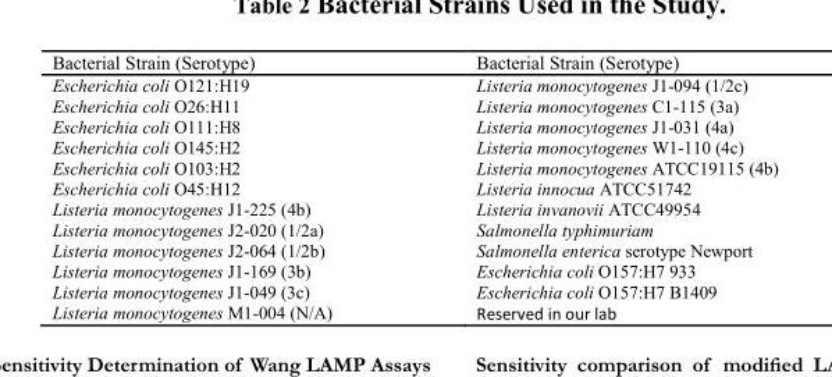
<table><thead><tr><td>Bacterial Strain (Serotype)</td><td>Bacterial Strain (Serotype)</td></tr></thead><tbody><tr><td>Escherichia coli O121:H19</td><td>Listeria monocytogenes J1-094 (1/2c)</td></tr><tr><td>Escherichia coli O26:H11</td><td>Listeria monocytogenes C1-115 (3a)</td></tr><tr><td>Escherichia coli O111:H8</td><td>Listeria monocytogenes J1-031 (4a)</td></tr><tr><td>Escherichia coli O145:H2</td><td>Listeria monocytogenes W1-110 (4c)</td></tr><tr><td>Escherichia coli O103:H2</td><td>Listeria monocytogenes ATCC19115 (4b)</td></tr><tr><td>Escherichia coli O45:H12</td><td>Listeria innocua ATCC51742</td></tr><tr><td>Listeria monocytogenes J1-225 (4b)</td><td>Listeria invanovii ATCC49954</td></tr><tr><td>Listeria monocytogenes J2-020 (1/2a)</td><td>Salmonella typhimuriam</td></tr><tr><td>Listeria monocytogenes J2-064 (1/2b)</td><td>Salmonella enterica serotype Newport</td></tr><tr><td>Listeria monocytogenes J1-169 (3b)</td><td>Escherichia coli O157:H7 933</td></tr><tr><td>Listeria monocytogenes J1-049 (3c)</td><td>Escherichia coli O157:H7 B1409</td></tr><tr><td>Listeria monocytogenes M1-004 (N/A)</td><td>Reserved in our lab</td></tr></tbody></table>